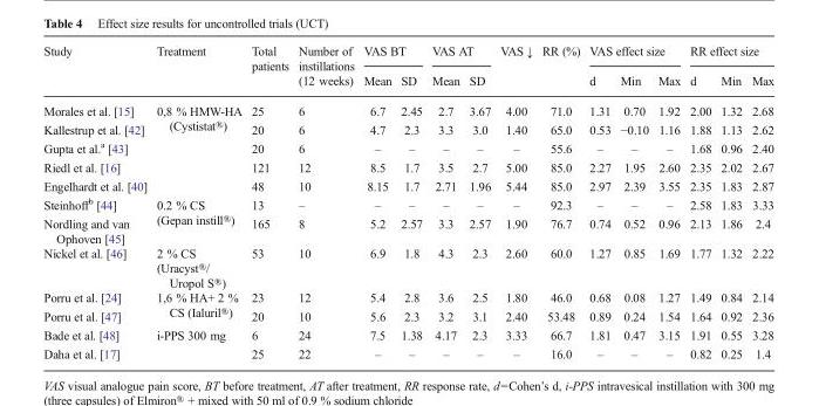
<table><thead><tr><td rowspan="2">Study</td><td rowspan="2">Treatment</td><td rowspan="2">Total patients</td><td rowspan="2">Number of instillations (12 weeks)</td><td colspan="2">VAS BT</td><td colspan="2">VAS AT</td><td rowspan="2">VAS ↓</td><td rowspan="2">RR (%)</td><td colspan="3">VAS effect size</td><td colspan="3">RR effect size</td></tr><tr><td>Mean</td><td>SD</td><td>Mean</td><td>SD</td><td>d</td><td>Min</td><td>Max</td><td>d</td><td>Min</td><td>Max</td></tr></thead><tbody><tr><td>Morales et al. [15]</td><td rowspan="5">0,8 % HMW-HA (Cystistat®)</td><td>25</td><td>6</td><td>6.7</td><td>2.45</td><td>2.7</td><td>3.67</td><td>4.00</td><td>71.0</td><td>1.31</td><td>0.70</td><td>1.92</td><td>2.00</td><td>1.32</td><td>2.68</td></tr><tr><td>Kallestrup et al. [42]</td><td>20</td><td>6</td><td>4.7</td><td>2.3</td><td>3.3</td><td>3.0</td><td>1.40</td><td>65.0</td><td>0.53</td><td>−0.10</td><td>1.16</td><td>1.88</td><td>1.13</td><td>2.62</td></tr><tr><td>Gupta et al.<sup>a</sup> [43]</td><td>20</td><td>6</td><td>–</td><td>–</td><td>–</td><td>–</td><td>–</td><td>55.6</td><td>–</td><td>–</td><td>–</td><td>1.68</td><td>0.96</td><td>2.40</td></tr><tr><td>Riedl et al. [16]</td><td>121</td><td>12</td><td>8.5</td><td>1.7</td><td>3.5</td><td>2.7</td><td>5.00</td><td>85.0</td><td>2.27</td><td>1.95</td><td>2.60</td><td>2.35</td><td>2.02</td><td>2.67</td></tr><tr><td>Engelhardt et al. [40]</td><td>48</td><td>10</td><td>8.15</td><td>1.7</td><td>2.71</td><td>1.96</td><td>5.44</td><td>85.0</td><td>2.97</td><td>2.39</td><td>3.55</td><td>2.35</td><td>1.83</td><td>2.87</td></tr><tr><td>Steinhoff<sup>b</sup> [44]</td><td rowspan="2">0.2 % CS (Gepan instill®)</td><td>13</td><td>–</td><td>–</td><td>–</td><td>–</td><td>–</td><td>–</td><td>92.3</td><td>–</td><td>–</td><td>–</td><td>2.58</td><td>1.83</td><td>3.33</td></tr><tr><td>Nordling and van Ophoven [45]</td><td>165</td><td>8</td><td>5.2</td><td>2.57</td><td>3.3</td><td>2.57</td><td>1.90</td><td>76.7</td><td>0.74</td><td>0.52</td><td>0.96</td><td>2.13</td><td>1.86</td><td>2.4</td></tr><tr><td>Nickel et al. [46]</td><td>2 % CS (Uracyst®/ Uropol S®)</td><td>53</td><td>10</td><td>6.9</td><td>1.8</td><td>4.3</td><td>2.3</td><td>2.60</td><td>60.0</td><td>1.27</td><td>0.85</td><td>1.69</td><td>1.77</td><td>1.32</td><td>2.22</td></tr><tr><td>Porru et al. [24]</td><td rowspan="2">1,6 % HA+ 2 % CS (Ialuril®)</td><td>23</td><td>12</td><td>5.4</td><td>2.8</td><td>3.6</td><td>2.5</td><td>1.80</td><td>46.0</td><td>0.68</td><td>0.08</td><td>1.27</td><td>1.49</td><td>0.84</td><td>2.14</td></tr><tr><td>Porru et al. [47]</td><td>20</td><td>10</td><td>5.6</td><td>2.3</td><td>3.2</td><td>3.1</td><td>2.40</td><td>53.48</td><td>0.89</td><td>0.24</td><td>1.54</td><td>1.64</td><td>0.92</td><td>2.36</td></tr><tr><td>Bade et al. [48]</td><td rowspan="2">i-PPS 300 mg</td><td>6</td><td>24</td><td>7.5</td><td>1.38</td><td>4.17</td><td>2.3</td><td>3.33</td><td>66.7</td><td>1.81</td><td>0.47</td><td>3.15</td><td>1.91</td><td>0.55</td><td>3.28</td></tr><tr><td>Daha et al. [17]</td><td>25</td><td>22</td><td>–</td><td>–</td><td>–</td><td>–</td><td>–</td><td>16.0</td><td>–</td><td>–</td><td>–</td><td>0.82</td><td>0.25</td><td>1.4</td></tr></tbody></table>